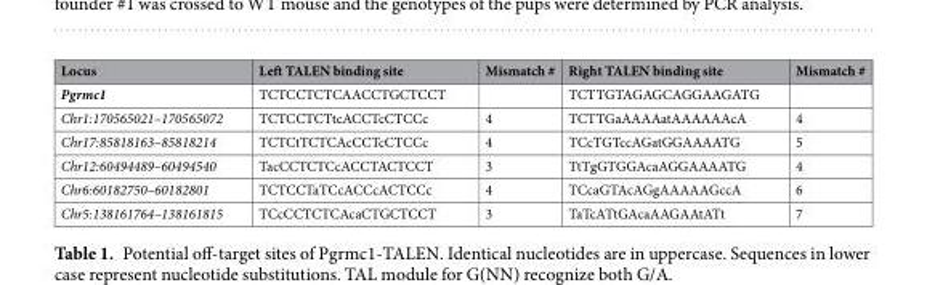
<table><thead><tr><td>Locus</td><td>Left TALEN binding site</td><td>Mismatch #</td><td>Right TALEN binding site</td><td>Mismatch #</td></tr></thead><tbody><tr><td>Pgrmc1</td><td>TCTCCTCTCAACCTGCTCCT</td><td></td><td>TCTTGTAGAGCAGGAAGATG</td><td></td></tr><tr><td>Chr1:170565021–170565072</td><td>TCTCCTCTtcACCTcCTCCc</td><td>4</td><td>TCTTGaAAAAatAAAAAAcA</td><td>4</td></tr><tr><td>Chr17:85818163–85818214</td><td>TCTCtTCTCAcCCTcCTCCc</td><td>4</td><td>TCcTGTccAGatGGAAAATG</td><td>5</td></tr><tr><td>Chr12:60494489–60494540</td><td>TacCCTCTCcACCTACTCCT</td><td>3</td><td>TtTgGTGGAcaAGGAAAATG</td><td>4</td></tr><tr><td>Chr6:60182750–60182801</td><td>TCTCCTaTCcACCcACTCCc</td><td>4</td><td>TCcaGTAcAGgAAAAAGccA</td><td>6</td></tr><tr><td>Chr5:138161764–138161815</td><td>TCcCCTCTCAcaCTGCTCCT</td><td>3</td><td>TaTcATtGAcaAAGAAtATt</td><td>7</td></tr></tbody></table>